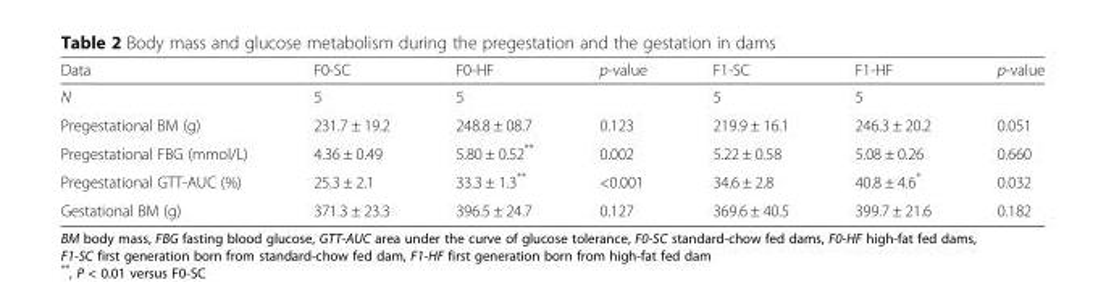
<table><thead><tr><td>Data</td><td>F0-SC</td><td>F0-HF</td><td>p-value</td><td>F1-SC</td><td>F1-HF</td><td>p-value</td></tr></thead><tbody><tr><td>N</td><td>5</td><td>5</td><td></td><td>5</td><td>5</td><td></td></tr><tr><td>Pregestational BM (g)</td><td>231.7 ± 19.2</td><td>248.8 ± 08.7</td><td>0.123</td><td>219.9 ± 16.1</td><td>246.3 ± 20.2</td><td>0.051</td></tr><tr><td>Pregestational FBG (mmol/L)</td><td>4.36 ± 0.49</td><td>5.80 ± 0.52**</td><td>0.002</td><td>5.22 ± 0.58</td><td>5.08 ± 0.26</td><td>0.660</td></tr><tr><td>Pregestational GTT-AUC (%)</td><td>25.3 ± 2.1</td><td>33.3 ± 1.3**</td><td>&lt;0.001</td><td>34.6 ± 2.8</td><td>40.8 ± 4.6*</td><td>0.032</td></tr><tr><td>Gestational BM (g)</td><td>371.3 ± 23.3</td><td>396.5 ± 24.7</td><td>0.127</td><td>369.6 ± 40.5</td><td>399.7 ± 21.6</td><td>0.182</td></tr></tbody></table>